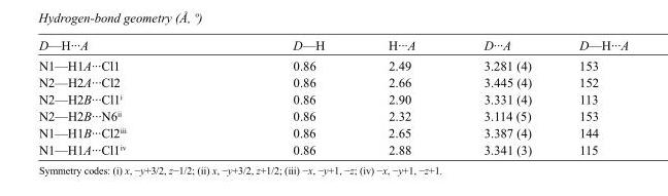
<table><tbody><tr><td>D—H···A</td><td>D—H</td><td>H···A</td><td>D···A</td><td>D—H···A</td></tr><tr><td>N1—H1A···Cl1</td><td>0.86</td><td>2.49</td><td>3.281 (4)</td><td>153</td></tr><tr><td>N2—H2A···Cl2</td><td>0.86</td><td>2.66</td><td>3.445 (4)</td><td>152</td></tr><tr><td>N2—H2B···Cl1<sup>i</sup></td><td>0.86</td><td>2.90</td><td>3.331 (4)</td><td>113</td></tr><tr><td>N2—H2B···N6<sup>ii</sup></td><td>0.86</td><td>2.32</td><td>3.114 (5)</td><td>153</td></tr><tr><td>N1—H1B···Cl2<sup>iii</sup></td><td>0.86</td><td>2.65</td><td>3.387 (4)</td><td>144</td></tr><tr><td>N1—H1A···Cl1<sup>iv</sup></td><td>0.86</td><td>2.88</td><td>3.341 (3)</td><td>115</td></tr></tbody></table>